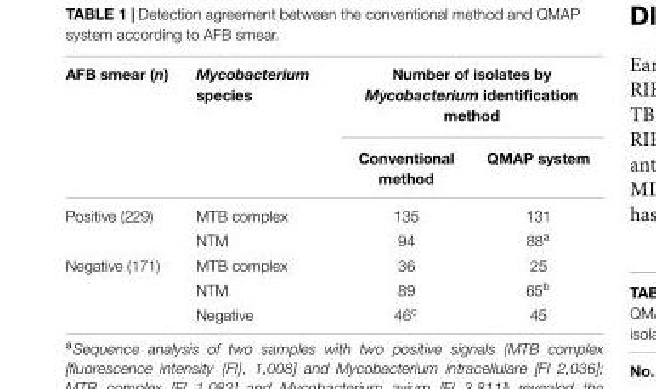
<table><thead><tr><td rowspan="2">AFB smear (n)</td><td rowspan="2">Mycobacterium species</td><td colspan="2">Number of isolates by Mycobacterium identification method</td></tr><tr><td>Conventional method</td><td>QMAP system</td></tr></thead><tbody><tr><td rowspan="2">Positive (229)</td><td>MTB complex</td><td>135</td><td>131</td></tr><tr><td>NTM</td><td>94</td><td>88<sup>a</sup></td></tr><tr><td rowspan="3">Negative (171)</td><td>MTB complex</td><td>36</td><td>25</td></tr><tr><td>NTM</td><td>89</td><td>65<sup>b</sup></td></tr><tr><td>Negative</td><td>46<sup>c</sup></td><td>45</td></tr></tbody></table>